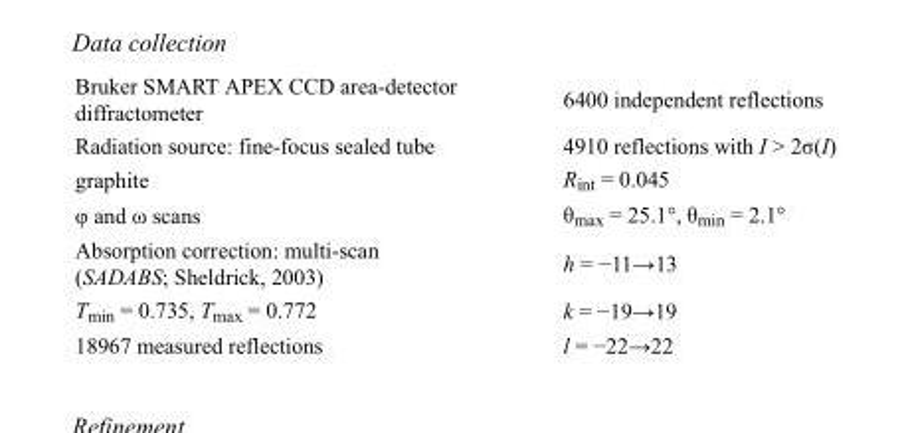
<table><tbody><tr><td>Bruker SMART APEX CCD area-detector diffractometer</td><td>6400 independent reflections</td></tr><tr><td>Radiation source: fine-focus sealed tube</td><td>4910 reflections with I &gt; 2σ(I)</td></tr><tr><td>graphite</td><td>R<sub>int</sub> = 0.045</td></tr><tr><td>φ and ω scans</td><td>θ<sub>max</sub> = 25.1°, θ<sub>min</sub> = 2.1°</td></tr><tr><td>Absorption correction: multi-scan (SADABS; Sheldrick, 2003)</td><td>h = −11→13</td></tr><tr><td>T<sub>min</sub> = 0.735, T<sub>max</sub> = 0.772</td><td>k = −19→19</td></tr><tr><td>18967 measured reflections</td><td>l = −22→22</td></tr></tbody></table>